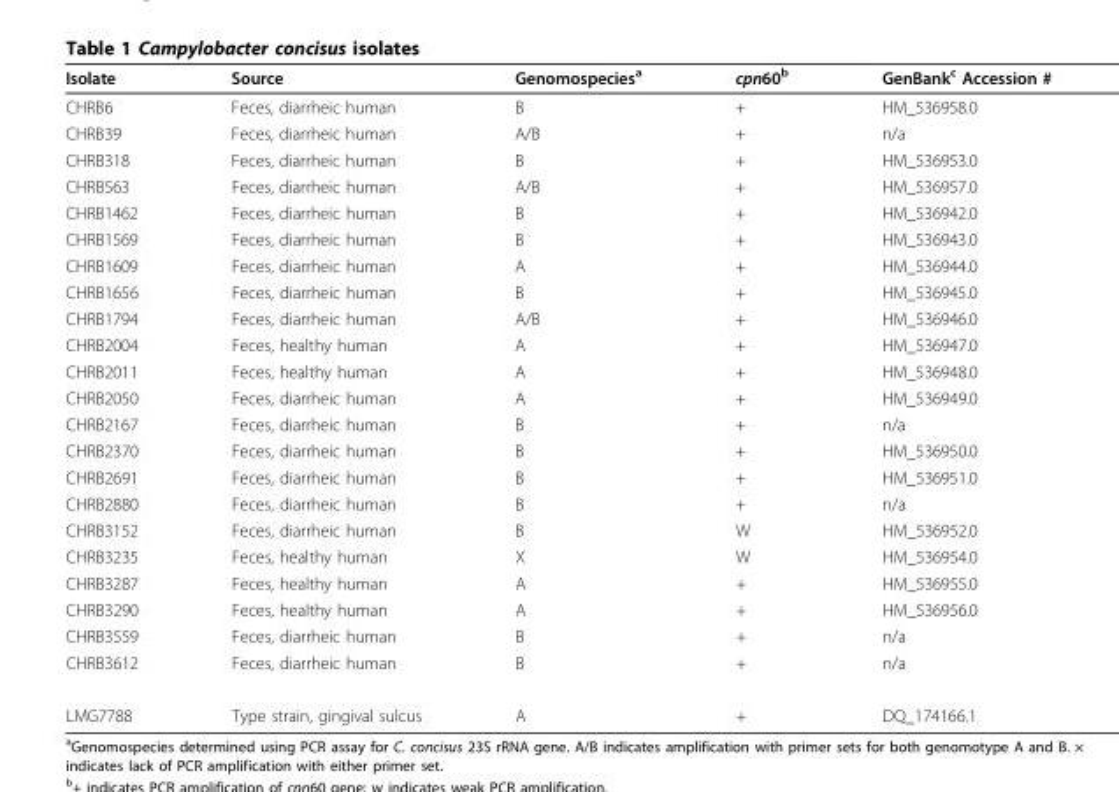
<table><thead><tr><td>Isolate</td><td>Source</td><td>Genomospecies<sup>a</sup></td><td>cpn60<sup>b</sup></td><td>GenBank<sup>c</sup> Accession #</td></tr></thead><tbody><tr><td>CHRB6</td><td>Feces, diarrheic human</td><td>B</td><td>+</td><td>HM_536958.0</td></tr><tr><td>CHRB39</td><td>Feces, diarrheic human</td><td>A/B</td><td>+</td><td>n/a</td></tr><tr><td>CHRB318</td><td>Feces, diarrheic human</td><td>B</td><td>+</td><td>HM_536953.0</td></tr><tr><td>CHRB563</td><td>Feces, diarrheic human</td><td>A/B</td><td>+</td><td>HM_536957.0</td></tr><tr><td>CHRB1462</td><td>Feces, diarrheic human</td><td>B</td><td>+</td><td>HM_536942.0</td></tr><tr><td>CHRB1569</td><td>Feces, diarrheic human</td><td>B</td><td>+</td><td>HM_536943.0</td></tr><tr><td>CHRB1609</td><td>Feces, diarrheic human</td><td>A</td><td>+</td><td>HM_536944.0</td></tr><tr><td>CHRB1656</td><td>Feces, diarrheic human</td><td>B</td><td>+</td><td>HM_536945.0</td></tr><tr><td>CHRB1794</td><td>Feces, diarrheic human</td><td>A/B</td><td>+</td><td>HM_536946.0</td></tr><tr><td>CHRB2004</td><td>Feces, healthy human</td><td>A</td><td>+</td><td>HM_536947.0</td></tr><tr><td>CHRB2011</td><td>Feces, healthy human</td><td>A</td><td>+</td><td>HM_536948.0</td></tr><tr><td>CHRB2050</td><td>Feces, diarrheic human</td><td>A</td><td>+</td><td>HM_536949.0</td></tr><tr><td>CHRB2167</td><td>Feces, diarrheic human</td><td>B</td><td>+</td><td>n/a</td></tr><tr><td>CHRB2370</td><td>Feces, diarrheic human</td><td>B</td><td>+</td><td>HM_536950.0</td></tr><tr><td>CHRB2691</td><td>Feces, diarrheic human</td><td>B</td><td>+</td><td>HM_536951.0</td></tr><tr><td>CHRB2880</td><td>Feces, diarrheic human</td><td>B</td><td>+</td><td>n/a</td></tr><tr><td>CHRB3152</td><td>Feces, diarrheic human</td><td>B</td><td>W</td><td>HM_536952.0</td></tr><tr><td>CHRB3235</td><td>Feces, healthy human</td><td>X</td><td>W</td><td>HM_536954.0</td></tr><tr><td>CHRB3287</td><td>Feces, healthy human</td><td>A</td><td>+</td><td>HM_536955.0</td></tr><tr><td>CHRB3290</td><td>Feces, healthy human</td><td>A</td><td>+</td><td>HM_536956.0</td></tr><tr><td>CHRB3559</td><td>Feces, diarrheic human</td><td>B</td><td>+</td><td>n/a</td></tr><tr><td>CHRB3612</td><td>Feces, diarrheic human</td><td>B</td><td>+</td><td>n/a</td></tr><tr><td>LMG7788</td><td>Type strain, gingival sulcus</td><td>A</td><td>+</td><td>DQ_174166.1</td></tr></tbody></table>